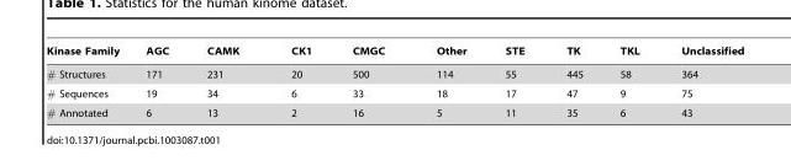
<table><thead><tr><td>Kinase Family</td><td>AGC</td><td>CAMK</td><td>CK1</td><td>CMGC</td><td>Other</td><td>STE</td><td>TK</td><td>TKL</td><td>Unclassified</td></tr></thead><tbody><tr><td># Structures</td><td>171</td><td>231</td><td>20</td><td>500</td><td>114</td><td>55</td><td>445</td><td>58</td><td>364</td></tr><tr><td># Sequences</td><td>19</td><td>34</td><td>6</td><td>33</td><td>18</td><td>17</td><td>47</td><td>9</td><td>75</td></tr><tr><td># Annotated</td><td>6</td><td>13</td><td>2</td><td>16</td><td>5</td><td>11</td><td>35</td><td>6</td><td>43</td></tr></tbody></table>